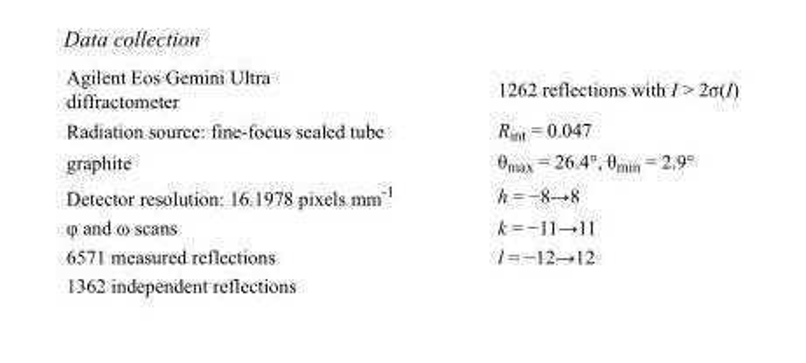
<table><tbody><tr><td>Agilent Eos Gemini Ultra diffractometer</td><td>1262 reflections with I &gt; 2σ(I)</td></tr><tr><td>Radiation source: fine-focus sealed tube</td><td>R<sub>int</sub> = 0.047</td></tr><tr><td>graphite</td><td>θ<sub>max</sub> = 26.4°, θ<sub>min</sub> = 2.9°</td></tr><tr><td>Detector resolution: 16.1978 pixels mm<sup>-1</sup></td><td>h = −8→8</td></tr><tr><td>φ and ω scans</td><td>k = −11→11</td></tr><tr><td>6571 measured reflections</td><td>l = −12→12</td></tr><tr><td>1362 independent reflections</td><td></td></tr></tbody></table>